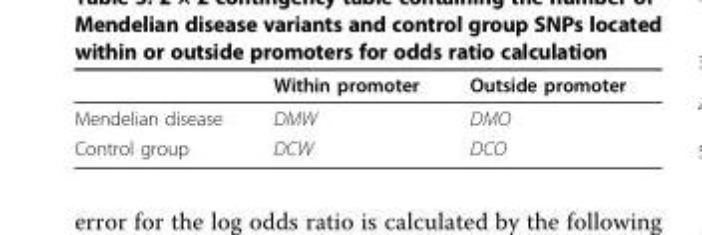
<table><thead><tr><td></td><td>Within promoter</td><td>Outside promoter</td></tr></thead><tbody><tr><td>Mendelian disease</td><td>DMW</td><td>DMO</td></tr><tr><td>Control group</td><td>DCW</td><td>DCO</td></tr></tbody></table>